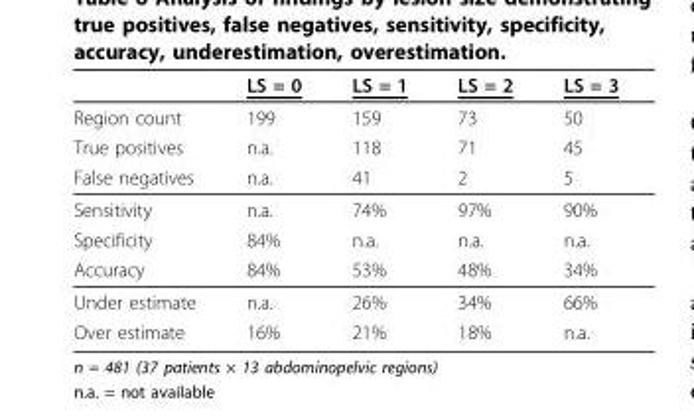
<table><thead><tr><td></td><td>LS = 0</td><td>LS = 1</td><td>LS = 2</td><td>LS = 3</td></tr></thead><tbody><tr><td>Region count</td><td>199</td><td>159</td><td>73</td><td>50</td></tr><tr><td>True positives</td><td>n.a.</td><td>118</td><td>71</td><td>45</td></tr><tr><td>False negatives</td><td>n.a.</td><td>41</td><td>2</td><td>5</td></tr><tr><td>Sensitivity</td><td>n.a.</td><td>74%</td><td>97%</td><td>90%</td></tr><tr><td>Specificity</td><td>84%</td><td>n.a.</td><td>n.a.</td><td>n.a.</td></tr><tr><td>Accuracy</td><td>84%</td><td>53%</td><td>48%</td><td>34%</td></tr><tr><td>Under estimate</td><td>n.a.</td><td>26%</td><td>34%</td><td>66%</td></tr><tr><td>Over estimate</td><td>16%</td><td>21%</td><td>18%</td><td>n.a.</td></tr></tbody></table>